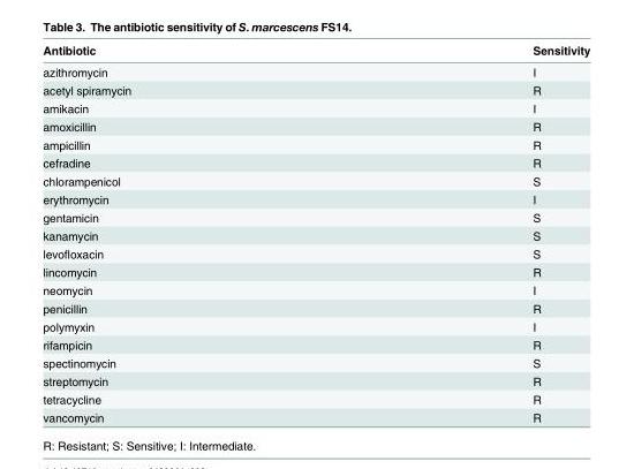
<table><thead><tr><td>Antibiotic</td><td>Sensitivity</td></tr></thead><tbody><tr><td>azithromycin</td><td>I</td></tr><tr><td>acetyl spiramycin</td><td>R</td></tr><tr><td>amikacin</td><td>I</td></tr><tr><td>amoxicillin</td><td>R</td></tr><tr><td>ampicillin</td><td>R</td></tr><tr><td>cefradine</td><td>R</td></tr><tr><td>chlorampenicol</td><td>S</td></tr><tr><td>erythromycin</td><td>I</td></tr><tr><td>gentamicin</td><td>S</td></tr><tr><td>kanamycin</td><td>S</td></tr><tr><td>levofloxacin</td><td>S</td></tr><tr><td>lincomycin</td><td>R</td></tr><tr><td>neomycin</td><td>I</td></tr><tr><td>penicillin</td><td>R</td></tr><tr><td>polymyxin</td><td>I</td></tr><tr><td>rifampicin</td><td>R</td></tr><tr><td>spectinomycin</td><td>S</td></tr><tr><td>streptomycin</td><td>R</td></tr><tr><td>tetracycline</td><td>R</td></tr><tr><td>vancomycin</td><td>R</td></tr></tbody></table>